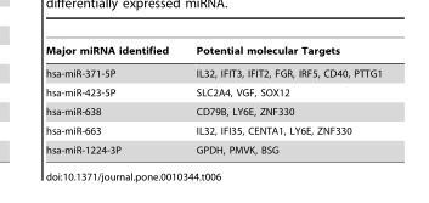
<table><thead><tr><td>Major miRNA identified</td><td>Potential molecular Targets</td></tr></thead><tbody><tr><td>hsa-miR-371-5P</td><td>IL32, IFIT3, IFIT2, FGR, IRF5, CD40, PTTG1</td></tr><tr><td>hsa-miR-423-5P</td><td>SLC2A4, VGF, SOX12</td></tr><tr><td>hsa-miR-638</td><td>CD79B, LY6E, ZNF330</td></tr><tr><td>hsa-miR-663</td><td>IL32, IFI35, CENTA1, LY6E, ZNF330</td></tr><tr><td>hsa-miR-1224-3P</td><td>GPDH, PMVK, BSG</td></tr></tbody></table>